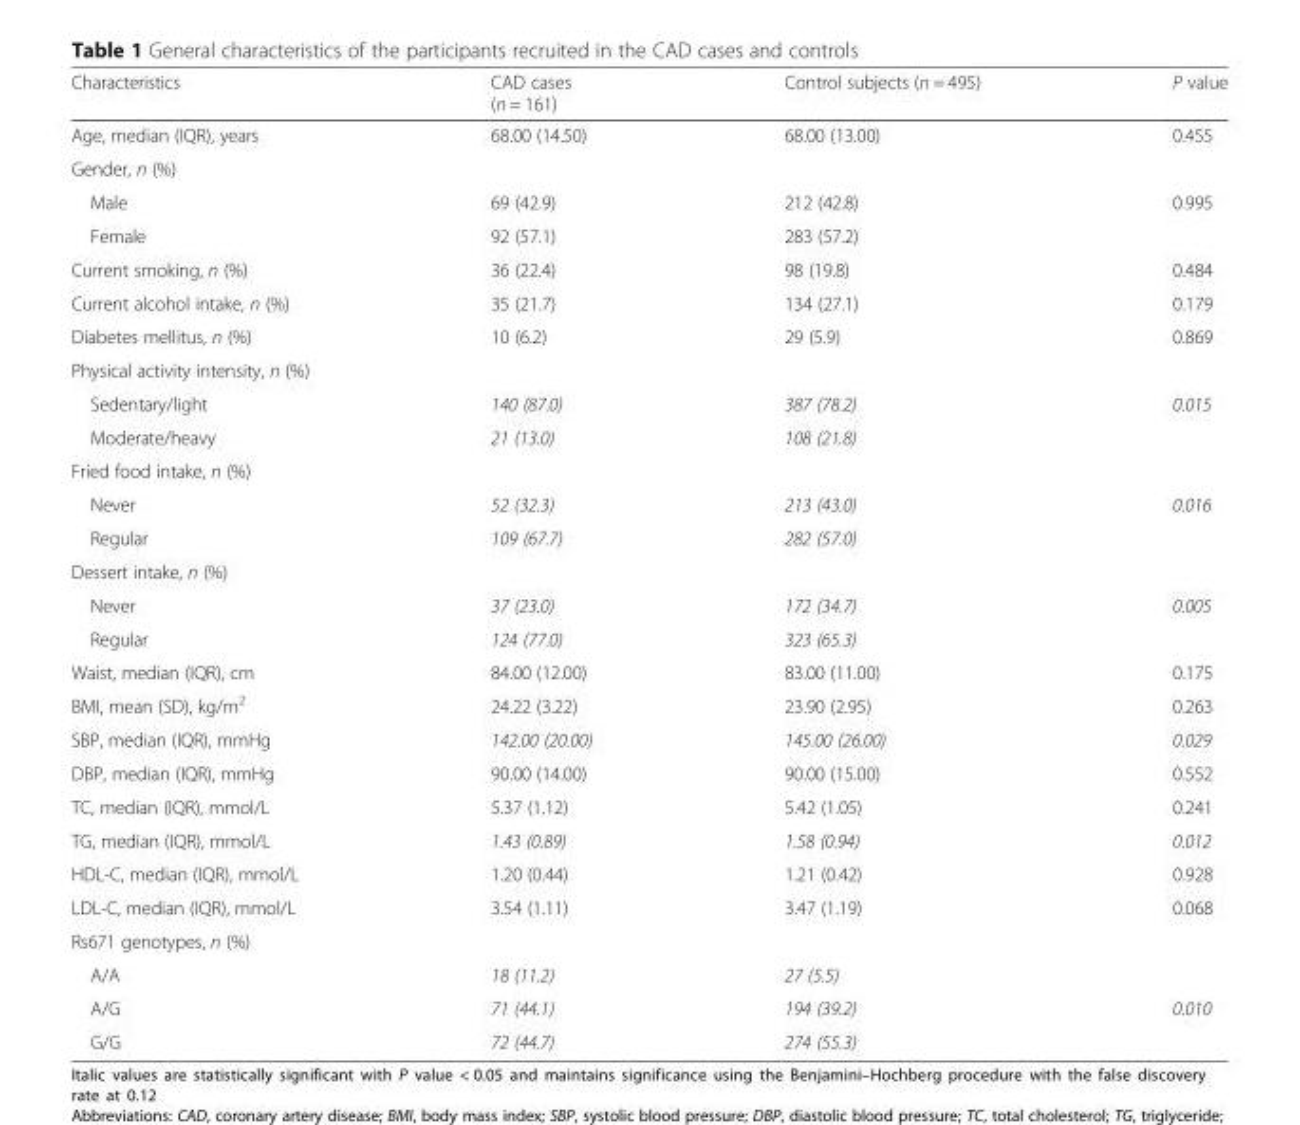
<table><thead><tr><td>Characteristics</td><td>CAD cases (n = 161)</td><td>Control subjects (n = 495)</td><td>P value</td></tr></thead><tbody><tr><td>Age, median (IQR), years</td><td>68.00 (14.50)</td><td>68.00 (13.00)</td><td>0.455</td></tr><tr><td colspan="4">Gender, n (%)</td></tr><tr><td>Male</td><td>69 (42.9)</td><td>212 (42.8)</td><td rowspan="2">0.995</td></tr><tr><td>Female</td><td>92 (57.1)</td><td>283 (57.2)</td></tr><tr><td>Current smoking, n (%)</td><td>36 (22.4)</td><td>98 (19.8)</td><td>0.484</td></tr><tr><td>Current alcohol intake, n (%)</td><td>35 (21.7)</td><td>134 (27.1)</td><td>0.179</td></tr><tr><td>Diabetes mellitus, n (%)</td><td>10 (6.2)</td><td>29 (5.9)</td><td>0.869</td></tr><tr><td colspan="4">Physical activity intensity, n (%)</td></tr><tr><td>Sedentary/light</td><td>140 (87.0)</td><td>387 (78.2)</td><td rowspan="2">0.015</td></tr><tr><td>Moderate/heavy</td><td>21 (13.0)</td><td>108 (21.8)</td></tr><tr><td colspan="4">Fried food intake, n (%)</td></tr><tr><td>Never</td><td>52 (32.3)</td><td>213 (43.0)</td><td rowspan="2">0.016</td></tr><tr><td>Regular</td><td>109 (67.7)</td><td>282 (57.0)</td></tr><tr><td colspan="4">Dessert intake, n (%)</td></tr><tr><td>Never</td><td>37 (23.0)</td><td>172 (34.7)</td><td rowspan="2">0.005</td></tr><tr><td>Regular</td><td>124 (77.0)</td><td>323 (65.3)</td></tr><tr><td>Waist, median (IQR), cm</td><td>84.00 (12.00)</td><td>83.00 (11.00)</td><td>0.175</td></tr><tr><td>BMI, mean (SD), kg/m<sup>2</sup></td><td>24.22 (3.22)</td><td>23.90 (2.95)</td><td>0.263</td></tr><tr><td>SBP, median (IQR), mmHg</td><td>142.00 (20.00)</td><td>145.00 (26.00)</td><td>0.029</td></tr><tr><td>DBP, median (IQR), mmHg</td><td>90.00 (14.00)</td><td>90.00 (15.00)</td><td>0.552</td></tr><tr><td>TC, median (IQR), mmol/L</td><td>5.37 (1.12)</td><td>5.42 (1.05)</td><td>0.241</td></tr><tr><td>TG, median (IQR), mmol/L</td><td>1.43 (0.89)</td><td>1.58 (0.94)</td><td>0.012</td></tr><tr><td>HDL-C, median (IQR), mmol/L</td><td>1.20 (0.44)</td><td>1.21 (0.42)</td><td>0.928</td></tr><tr><td>LDL-C, median (IQR), mmol/L</td><td>3.54 (1.11)</td><td>3.47 (1.19)</td><td>0.068</td></tr><tr><td colspan="4">Rs671 genotypes, n (%)</td></tr><tr><td>A/A</td><td>18 (11.2)</td><td>27 (5.5)</td><td></td></tr><tr><td>A/G</td><td>71 (44.1)</td><td>194 (39.2)</td><td>0.010</td></tr><tr><td>G/G</td><td>72 (44.7)</td><td>274 (55.3)</td><td></td></tr></tbody></table>